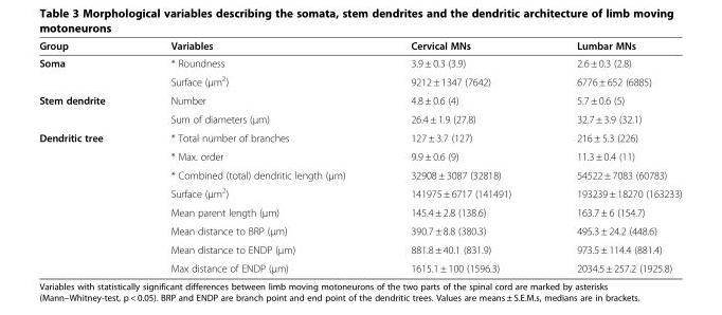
<table><thead><tr><td>Group</td><td>Variables</td><td>Cervical MNs</td><td>Lumbar MNs</td></tr></thead><tbody><tr><td rowspan="2">Soma</td><td>* Roundness</td><td>3.9 ± 0.3 (3.9)</td><td>2.6 ± 0.3 (2.8)</td></tr><tr><td>Surface (μm<sup>2</sup>)</td><td>9212 ± 1347 (7642)</td><td>6776 ± 652 (6885)</td></tr><tr><td rowspan="2">Stem dendrite</td><td>Number</td><td>4.8 ± 0.6 (4)</td><td>5.7 ± 0.6 (5)</td></tr><tr><td>Sum of diameters (μm)</td><td>26.4 ± 1.9 (27.8)</td><td>32.7 ± 3.9 (32.1)</td></tr><tr><td rowspan="8">Dendritic tree</td><td>* Total number of branches</td><td>127 ± 3.7 (127)</td><td>216 ± 5.3 (226)</td></tr><tr><td>* Max. order</td><td>9.9 ± 0.6 (9)</td><td>11.3 ± 0.4 (11)</td></tr><tr><td>* Combined (total) dendritic length (μm)</td><td>32908 ± 3087 (32818)</td><td>54522 ± 7083 (60783)</td></tr><tr><td>Surface (μm<sup>2</sup>)</td><td>141975 ± 6717 (141491)</td><td>193239 ± 18270 (163233)</td></tr><tr><td>Mean parent length (μm)</td><td>145.4 ± 2.8 (138.6)</td><td>163.7 ± 6 (154.7)</td></tr><tr><td>Mean distance to BRP (μm)</td><td>390.7 ± 8.8 (380.3)</td><td>495.3 ± 24.2 (448.6)</td></tr><tr><td>Mean distance to ENDP (μm)</td><td>881.8 ± 40.1 (831.9)</td><td>973.5 ± 114.4 (881.4)</td></tr><tr><td>Max distance of ENDP (μm)</td><td>1615.1 ± 100 (1596.3)</td><td>2034.5 ± 257.2 (1925.8)</td></tr></tbody></table>